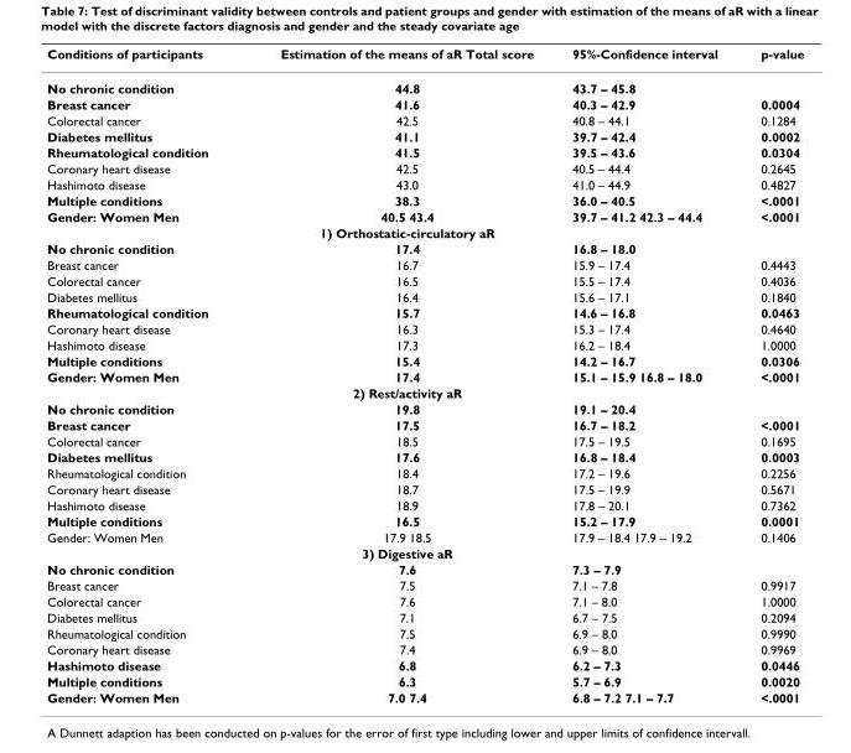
<table><thead><tr><td>Conditions of participants</td><td>Estimation of the means of aR Total score</td><td>95%-Confidence interval</td><td>p-value</td></tr></thead><tbody><tr><td>No chronic condition</td><td>44.8</td><td>43.7 – 45.8</td><td></td></tr><tr><td>Breast cancer</td><td>41.6</td><td>40.3 – 42.9</td><td>0.0004</td></tr><tr><td>Colorectal cancer</td><td>42.5</td><td>40.8 – 44.1</td><td>0.1284</td></tr><tr><td>Diabetes mellitus</td><td>41.1</td><td>39.7 – 42.4</td><td>0.0002</td></tr><tr><td>Rheumatological condition</td><td>41.5</td><td>39.5 – 43.6</td><td>0.0304</td></tr><tr><td>Coronary heart disease</td><td>42.5</td><td>40.5 – 44.4</td><td>0.2645</td></tr><tr><td>Hashimoto disease</td><td>43.0</td><td>41.0 – 44.9</td><td>0.4827</td></tr><tr><td>Multiple conditions</td><td>38.3</td><td>36.0 – 40.5</td><td>&lt;.0001</td></tr><tr><td rowspan="2">Gender: Women Men</td><td>40.5 43.4</td><td>39.7 – 41.2 42.3 – 44.4</td><td>&lt;.0001</td></tr><tr><td>1) Orthostatic-circulatory aR</td><td></td><td></td></tr><tr><td>No chronic condition</td><td>17.4</td><td>16.8 – 18.0</td><td></td></tr><tr><td>Breast cancer</td><td>16.7</td><td>15.9 – 17.4</td><td>0.4443</td></tr><tr><td>Colorectal cancer</td><td>16.5</td><td>15.5 – 17.4</td><td>0.4036</td></tr><tr><td>Diabetes mellitus</td><td>16.4</td><td>15.6 – 17.1</td><td>0.1840</td></tr><tr><td>Rheumatological condition</td><td>15.7</td><td>14.6 – 16.8</td><td>0.0463</td></tr><tr><td>Coronary heart disease</td><td>16.3</td><td>15.3 – 17.4</td><td>0.4640</td></tr><tr><td>Hashimoto disease</td><td>17.3</td><td>16.2 – 18.4</td><td>1.0000</td></tr><tr><td>Multiple conditions</td><td>15.4</td><td>14.2 – 16.7</td><td>0.0306</td></tr><tr><td rowspan="2">Gender: Women Men</td><td>17.4</td><td>15.1 – 15.9 16.8 – 18.0</td><td>&lt;.0001</td></tr><tr><td>2) Rest/activity aR</td><td></td><td></td></tr><tr><td>No chronic condition</td><td>19.8</td><td>19.1 – 20.4</td><td></td></tr><tr><td>Breast cancer</td><td>17.5</td><td>16.7 – 18.2</td><td>&lt;.0001</td></tr><tr><td>Colorectal cancer</td><td>18.5</td><td>17.5 – 19.5</td><td>0.1695</td></tr><tr><td>Diabetes mellitus</td><td>17.6</td><td>16.8 – 18.4</td><td>0.0003</td></tr><tr><td>Rheumatological condition</td><td>18.4</td><td>17.2 – 19.6</td><td>0.2256</td></tr><tr><td>Coronary heart disease</td><td>18.7</td><td>17.5 – 19.9</td><td>0.5671</td></tr><tr><td>Hashimoto disease</td><td>18.9</td><td>17.8 – 20.1</td><td>0.7362</td></tr><tr><td>Multiple conditions</td><td>16.5</td><td>15.2 – 17.9</td><td>0.0001</td></tr><tr><td rowspan="2">Gender: Women Men</td><td>17.9 18.5</td><td>17.9 – 18.4 17.9 – 19.2</td><td>0.1406</td></tr><tr><td>3) Digestive aR</td><td></td><td></td></tr><tr><td>No chronic condition</td><td>7.6</td><td>7.3 – 7.9</td><td></td></tr><tr><td>Breast cancer</td><td>7.5</td><td>7.1 – 7.8</td><td>0.9917</td></tr><tr><td>Colorectal cancer</td><td>7.6</td><td>7.1 – 8.0</td><td>1.0000</td></tr><tr><td>Diabetes mellitus</td><td>7.1</td><td>6.7 – 7.5</td><td>0.2094</td></tr><tr><td>Rheumatological condition</td><td>7.5</td><td>6.9 – 8.0</td><td>0.9990</td></tr><tr><td>Coronary heart disease</td><td>7.4</td><td>6.9 – 8.0</td><td>0.9969</td></tr><tr><td>Hashimoto disease</td><td>6.8</td><td>6.2 – 7.3</td><td>0.0446</td></tr><tr><td>Multiple conditions</td><td>6.3</td><td>5.7 – 6.9</td><td>0.0020</td></tr><tr><td>Gender: Women Men</td><td>7.0 7.4</td><td>6.8 – 7.2 7.1 – 7.7</td><td>&lt;.0001</td></tr></tbody></table>